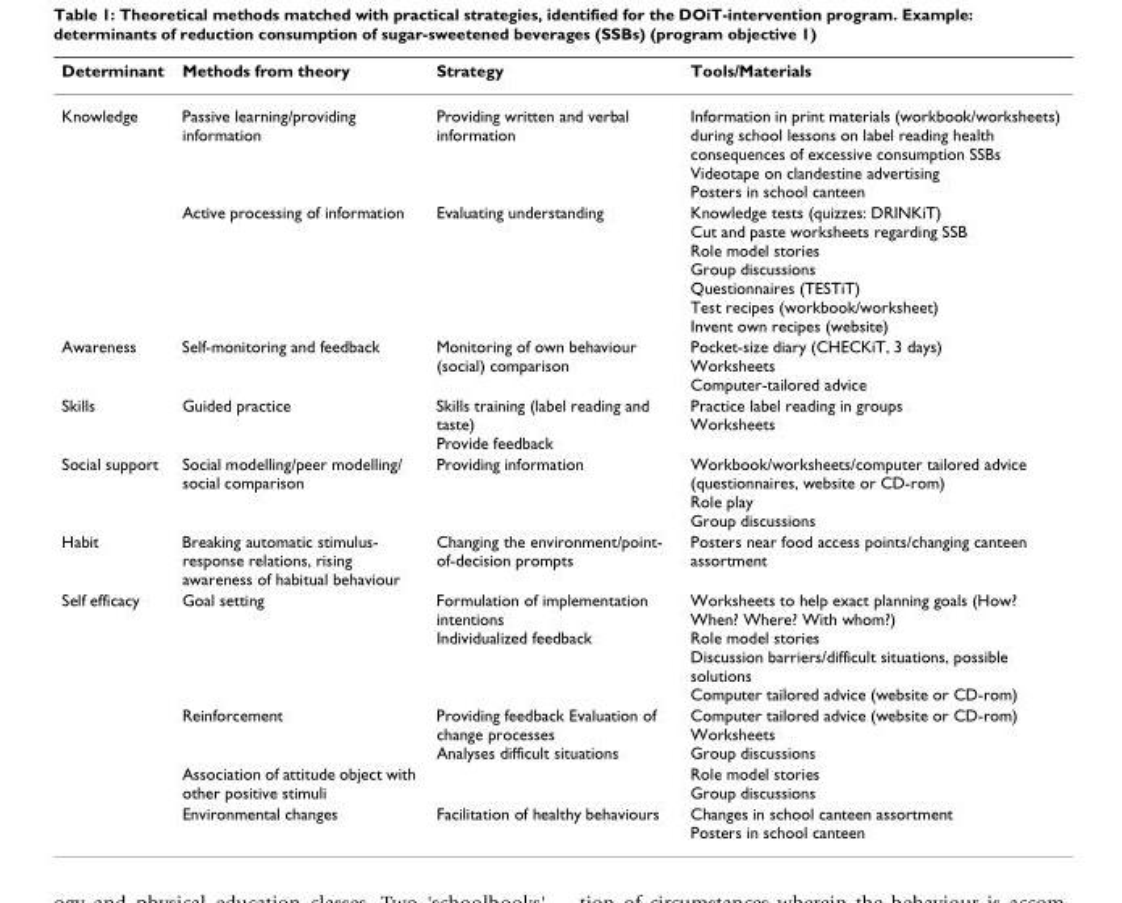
<table><thead><tr><td>Determinant</td><td>Methods from theory</td><td>Strategy</td><td>Tools/Materials</td></tr></thead><tbody><tr><td rowspan="2">Knowledge</td><td>Passive learning/providing information</td><td>Providing written and verbal information</td><td>Information in print materials (workbook/worksheets) during school lessons on label reading health consequences of excessive consumption SSBs Videotape on clandestine advertising Posters in school canteen</td></tr><tr><td>Active processing of information</td><td>Evaluating understanding</td><td>Knowledge tests (quizzes: DRINKiT) Cut and paste worksheets regarding SSB Role model stories Group discussions Questionnaires (TESTiT) Test recipes (workbook/worksheet) Invent own recipes (website)</td></tr><tr><td>Awareness</td><td>Self-monitoring and feedback</td><td>Monitoring of own behaviour (social) comparison</td><td>Pocket-size diary (CHECKiT, 3 days) Worksheets Computer-tailored advice</td></tr><tr><td>Skills</td><td>Guided practice</td><td>Skills training (label reading and taste) Provide feedback</td><td>Practice label reading in groups Worksheets</td></tr><tr><td>Social support</td><td>Social modelling/peer modelling/ social comparison</td><td>Providing information</td><td>Workbook/worksheets/computer tailored advice (questionnaires, website or CD-rom) Role play Group discussions</td></tr><tr><td>Habit</td><td>Breaking automatic stimulus- response relations, rising awareness of habitual behaviour</td><td>Changing the environment/point- of-decision prompts</td><td>Posters near food access points/changing canteen assortment</td></tr><tr><td rowspan="4">Self efficacy</td><td>Goal setting</td><td>Formulation of implementation intentions Individualized feedback</td><td>Worksheets to help exact planning goals (How? When? Where? With whom?) Role model stories Discussion barriers/difficult situations, possible solutions Computer tailored advice (website or CD-rom)</td></tr><tr><td>Reinforcement</td><td>Providing feedback Evaluation of change processes Analyses difficult situations</td><td>Computer tailored advice (website or CD-rom) Worksheets Group discussions</td></tr><tr><td>Association of attitude object with other positive stimuli</td><td></td><td>Role model stories Group discussions</td></tr><tr><td>Environmental changes</td><td>Facilitation of healthy behaviours</td><td>Changes in school canteen assortment Posters in school canteen</td></tr></tbody></table>